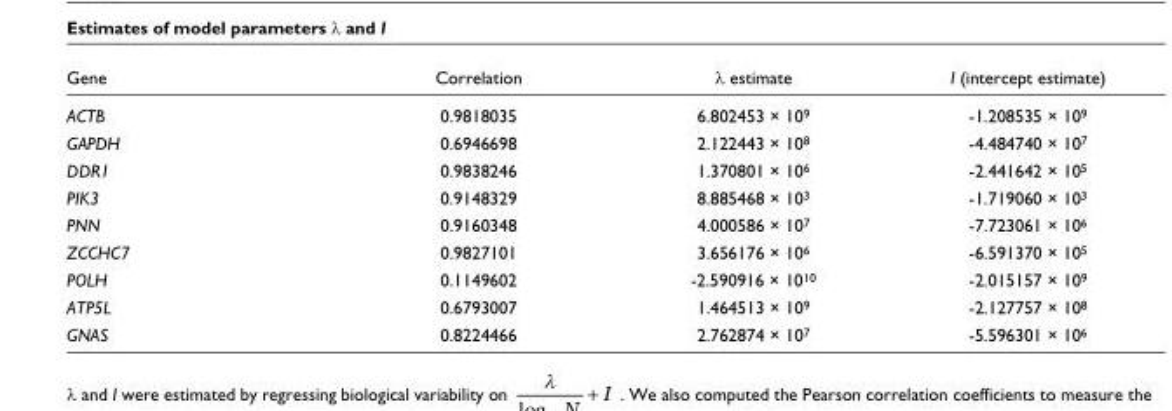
<table><thead><tr><td>Gene</td><td>Correlation</td><td>λ estimate</td><td>I (intercept estimate)</td></tr></thead><tbody><tr><td>ACTB</td><td>0.9818035</td><td>6.802453 × 109</td><td>-1.208535 × 109</td></tr><tr><td>GAPDH</td><td>0.6946698</td><td>2.122443 × 108</td><td>-4.484740 × 107</td></tr><tr><td>DDR1</td><td>0.9838246</td><td>1.370801 × 106</td><td>-2.441642 × 105</td></tr><tr><td>PIK3</td><td>0.9148329</td><td>8.885468 × 103</td><td>-1.719060 × 103</td></tr><tr><td>PNN</td><td>0.9160348</td><td>4.000586 × 107</td><td>-7.723061 × 106</td></tr><tr><td>ZCCHC7</td><td>0.9827101</td><td>3.656176 × 106</td><td>-6.591370 × 105</td></tr><tr><td>POLH</td><td>0.1149602</td><td>-2.590916 × 1010</td><td>-2.015157 × 109</td></tr><tr><td>ATP5L</td><td>0.6793007</td><td>1.464513 × 109</td><td>-2.127757 × 108</td></tr><tr><td>GNAS</td><td>0.8224466</td><td>2.762874 × 107</td><td>-5.596301 × 106</td></tr></tbody></table>